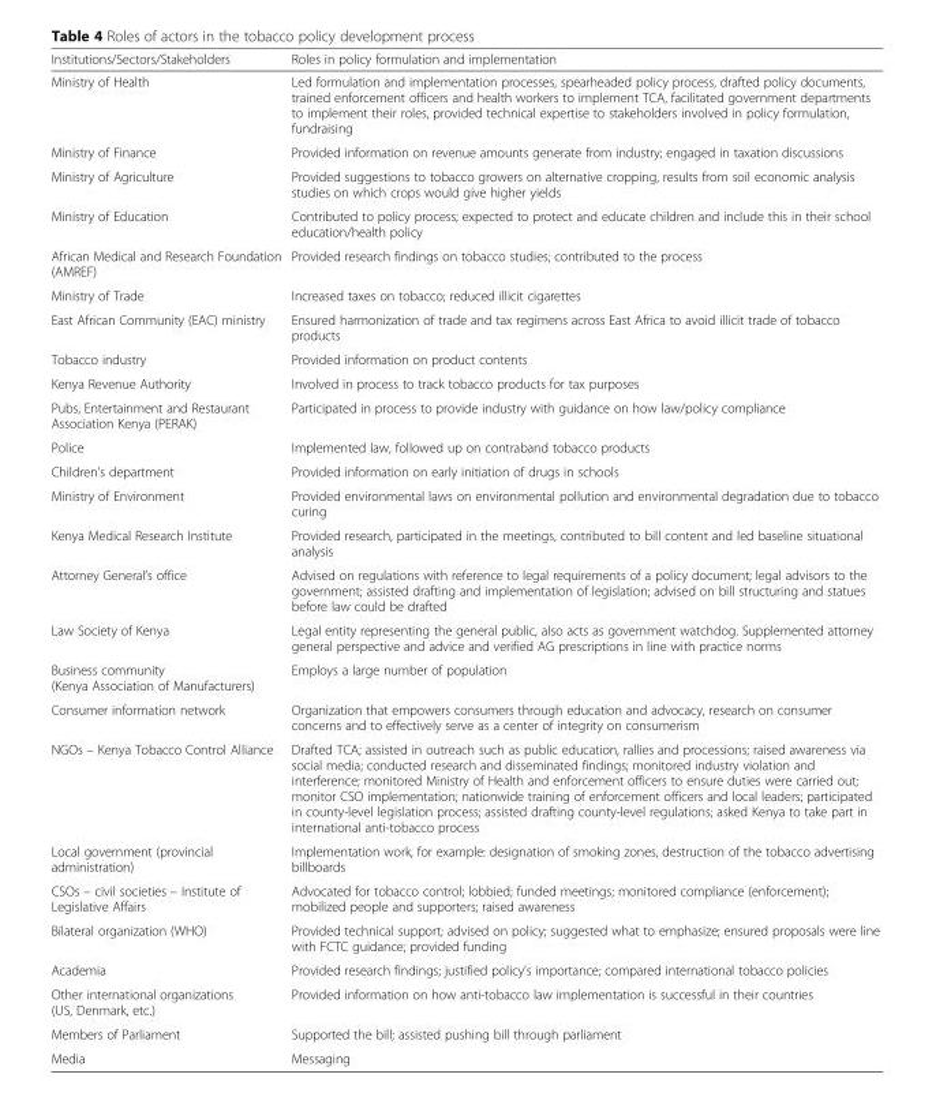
<table><thead><tr><td>Institutions/Sectors/Stakeholders</td><td>Roles in policy formulation and implementation</td></tr></thead><tbody><tr><td>Ministry of Health</td><td>Led formulation and implementation processes, spearheaded policy process, drafted policy documents, trained enforcement officers and health workers to implement TCA, facilitated government departments to implement their roles, provided technical expertise to stakeholders involved in policy formulation, fundraising</td></tr><tr><td>Ministry of Finance</td><td>Provided information on revenue amounts generate from industry; engaged in taxation discussions</td></tr><tr><td>Ministry of Agriculture</td><td>Provided suggestions to tobacco growers on alternative cropping, results from soil economic analysis studies on which crops would give higher yields</td></tr><tr><td>Ministry of Education</td><td>Contributed to policy process; expected to protect and educate children and include this in their school education/health policy</td></tr><tr><td>African Medical and Research Foundation (AMREF)</td><td>Provided research findings on tobacco studies; contributed to the process</td></tr><tr><td>Ministry of Trade</td><td>Increased taxes on tobacco; reduced illicit cigarettes</td></tr><tr><td>East African Community (EAC) ministry</td><td>Ensured harmonization of trade and tax regimens across East Africa to avoid illicit trade of tobacco products</td></tr><tr><td>Tobacco industry</td><td>Provided information on product contents</td></tr><tr><td>Kenya Revenue Authority</td><td>Involved in process to track tobacco products for tax purposes</td></tr><tr><td>Pubs, Entertainment and Restaurant Association Kenya (PERAK)</td><td>Participated in process to provide industry with guidance on how law/policy compliance</td></tr><tr><td>Police</td><td>Implemented law, followed up on contraband tobacco products</td></tr><tr><td>Children’s department</td><td>Provided information on early initiation of drugs in schools</td></tr><tr><td>Ministry of Environment</td><td>Provided environmental laws on environmental pollution and environmental degradation due to tobacco curing</td></tr><tr><td>Kenya Medical Research Institute</td><td>Provided research, participated in the meetings, contributed to bill content and led baseline situational analysis</td></tr><tr><td>Attorney General’s office</td><td>Advised on regulations with reference to legal requirements of a policy document; legal advisors to the government; assisted drafting and implementation of legislation; advised on bill structuring and statues before law could be drafted</td></tr><tr><td>Law Society of Kenya</td><td>Legal entity representing the general public, also acts as government watchdog. Supplemented attorney general perspective and advice and verified AG prescriptions in line with practice norms</td></tr><tr><td>Business community (Kenya Association of Manufacturers)</td><td>Employs a large number of population</td></tr><tr><td>Consumer information network</td><td>Organization that empowers consumers through education and advocacy, research on consumer concerns and to effectively serve as a center of integrity on consumerism</td></tr><tr><td>NGOs – Kenya Tobacco Control Alliance</td><td>Drafted TCA; assisted in outreach such as public education, rallies and processions; raised awareness via social media; conducted research and disseminated findings; monitored industry violation and interference; monitored Ministry of Health and enforcement officers to ensure duties were carried out; monitor CSO implementation; nationwide training of enforcement officers and local leaders; participated in county-level legislation process; assisted drafting county-level regulations; asked Kenya to take part in international anti-tobacco process</td></tr><tr><td>Local government (provincial administration)</td><td>Implementation work, for example: designation of smoking zones, destruction of the tobacco advertising billboards</td></tr><tr><td>CSOs – civil societies – Institute of Legislative Affairs</td><td>Advocated for tobacco control; lobbied; funded meetings; monitored compliance (enforcement); mobilized people and supporters; raised awareness</td></tr><tr><td>Bilateral organization (WHO)</td><td>Provided technical support; advised on policy; suggested what to emphasize; ensured proposals were line with FCTC guidance; provided funding</td></tr><tr><td>Academia</td><td>Provided research findings; justified policy’s importance; compared international tobacco policies</td></tr><tr><td>Other international organizations (US, Denmark, etc.)</td><td>Provided information on how anti-tobacco law implementation is successful in their countries</td></tr><tr><td>Members of Parliament</td><td>Supported the bill; assisted pushing bill through parliament</td></tr><tr><td>Media</td><td>Messaging</td></tr></tbody></table>